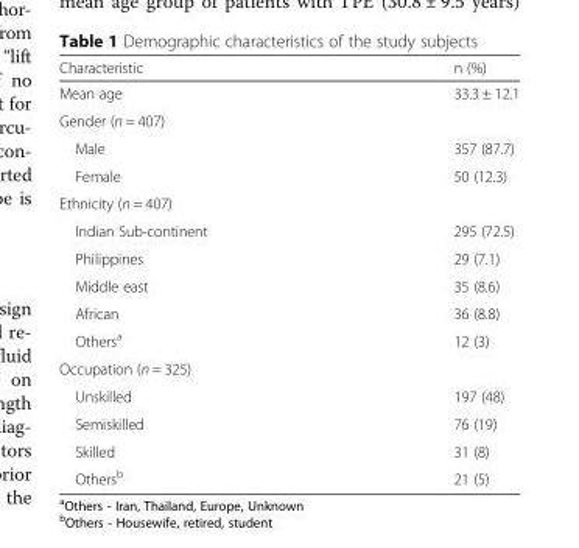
<table><thead><tr><td>Characteristic</td><td>n (%)</td></tr></thead><tbody><tr><td>Mean age</td><td>33.3 ± 12.1</td></tr><tr><td colspan="2">Gender (n = 407)</td></tr><tr><td>Male</td><td>357 (87.7)</td></tr><tr><td>Female</td><td>50 (12.3)</td></tr><tr><td colspan="2">Ethnicity (n = 407)</td></tr><tr><td>Indian Sub-continent</td><td>295 (72.5)</td></tr><tr><td>Philippines</td><td>29 (7.1)</td></tr><tr><td>Middle east</td><td>35 (8.6)</td></tr><tr><td>African</td><td>36 (8.8)</td></tr><tr><td>Others<sup>a</sup></td><td>12 (3)</td></tr><tr><td colspan="2">Occupation (n = 325)</td></tr><tr><td>Unskilled</td><td>197 (48)</td></tr><tr><td>Semiskilled</td><td>76 (19)</td></tr><tr><td>Skilled</td><td>31 (8)</td></tr><tr><td>Others<sup>b</sup></td><td>21 (5)</td></tr></tbody></table>